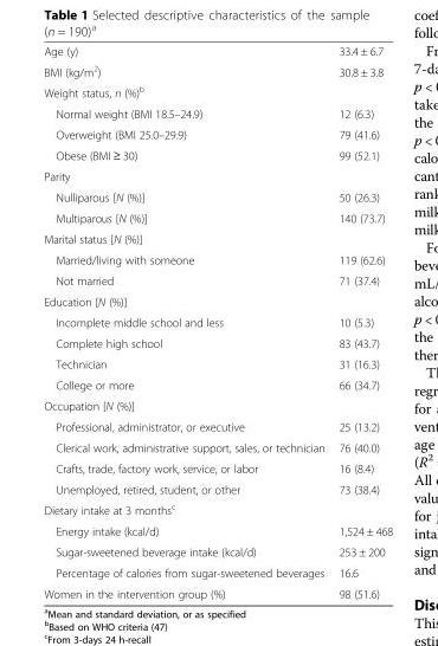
<table><tbody><tr><td>Age (y)</td><td>33.4 ± 6.7</td></tr><tr><td>BMI (kg/m<sup>2</sup>)</td><td>30.8 ± 3.8</td></tr><tr><td colspan="2">Weight status, n (%)<sup>b</sup></td></tr><tr><td>Normal weight (BMI 18.5–24.9)</td><td>12 (6.3)</td></tr><tr><td>Overweight (BMI 25.0–29.9)</td><td>79 (41.6)</td></tr><tr><td>Obese (BMI ≥ 30)</td><td>99 (52.1)</td></tr><tr><td colspan="2">Parity</td></tr><tr><td>Nulliparous [N (%)]</td><td>50 (26.3)</td></tr><tr><td>Multiparous [N (%)]</td><td>140 (73.7)</td></tr><tr><td colspan="2">Marital status [N (%)]</td></tr><tr><td>Married/living with someone</td><td>119 (62.6)</td></tr><tr><td>Not married</td><td>71 (37.4)</td></tr><tr><td colspan="2">Education [N (%)]</td></tr><tr><td>Incomplete middle school and less</td><td>10 (5.3)</td></tr><tr><td>Complete high school</td><td>83 (43.7)</td></tr><tr><td>Technician</td><td>31 (16.3)</td></tr><tr><td>College or more</td><td>66 (34.7)</td></tr><tr><td colspan="2">Occupation [N (%)]</td></tr><tr><td>Professional, administrator, or executive</td><td>25 (13.2)</td></tr><tr><td>Clerical work, administrative support, sales, or technician</td><td>76 (40.0)</td></tr><tr><td>Crafts, trade, factory work, service, or labor</td><td>16 (8.4)</td></tr><tr><td>Unemployed, retired, student, or other</td><td>73 (38.4)</td></tr><tr><td colspan="2">Dietary intake at 3 months<sup>c</sup></td></tr><tr><td>Energy intake (kcal/d)</td><td>1,524 ± 468</td></tr><tr><td>Sugar-sweetened beverage intake (kcal/d)</td><td>253 ± 200</td></tr><tr><td>Percentage of calories from sugar-sweetened beverages</td><td>16.6</td></tr><tr><td>Women in the intervention group (%)</td><td>98 (51.6)</td></tr></tbody></table>